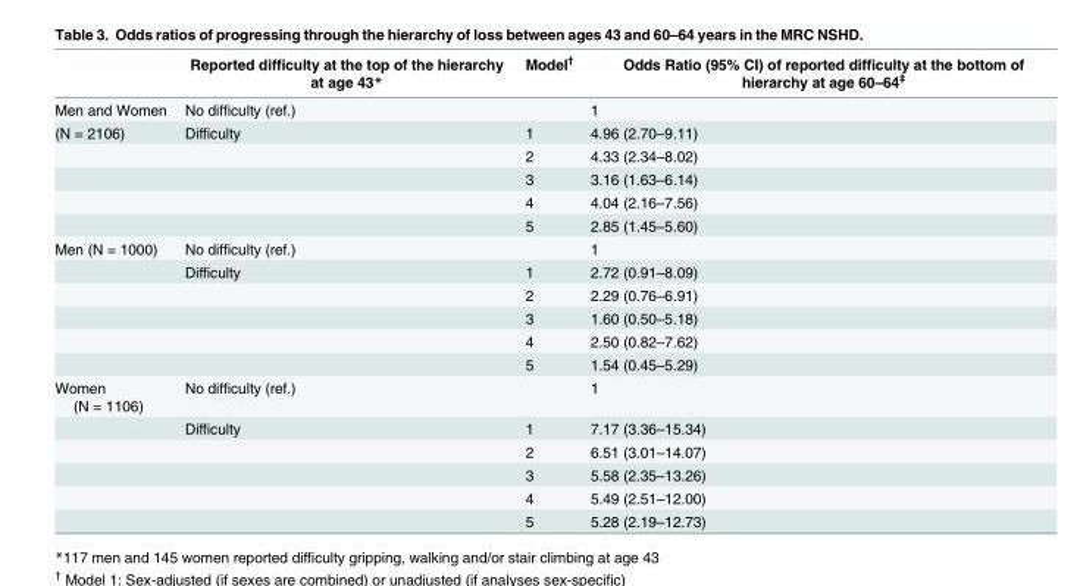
<table><thead><tr><td></td><td>Reported difficulty at the top of the hierarchy at age 43*</td><td>Model<sup>†</sup></td><td>Odds Ratio (95% CI) of reported difficulty at the bottom of hierarchy at age 60–64<sup>‡</sup></td></tr></thead><tbody><tr><td>Men and Women</td><td>No difficulty (ref.)</td><td></td><td>1</td></tr><tr><td rowspan="5">(N = 2106)</td><td>Difficulty</td><td>1</td><td>4.96 (2.70–9.11)</td></tr><tr><td></td><td>2</td><td>4.33 (2.34–8.02)</td></tr><tr><td></td><td>3</td><td>3.16 (1.63–6.14)</td></tr><tr><td></td><td>4</td><td>4.04 (2.16–7.56)</td></tr><tr><td></td><td>5</td><td>2.85 (1.45–5.60)</td></tr><tr><td rowspan="6">Men (N = 1000)</td><td>No difficulty (ref.)</td><td></td><td>1</td></tr><tr><td>Difficulty</td><td>1</td><td>2.72 (0.91–8.09)</td></tr><tr><td></td><td>2</td><td>2.29 (0.76–6.91)</td></tr><tr><td></td><td>3</td><td>1.60 (0.50–5.18)</td></tr><tr><td></td><td>4</td><td>2.50 (0.82–7.62)</td></tr><tr><td></td><td>5</td><td>1.54 (0.45–5.29)</td></tr><tr><td rowspan="6">Women (N = 1106)</td><td>No difficulty (ref.)</td><td></td><td>1</td></tr><tr><td>Difficulty</td><td>1</td><td>7.17 (3.36–15.34)</td></tr><tr><td></td><td>2</td><td>6.51 (3.01–14.07)</td></tr><tr><td></td><td>3</td><td>5.58 (2.35–13.26)</td></tr><tr><td></td><td>4</td><td>5.49 (2.51–12.00)</td></tr><tr><td></td><td>5</td><td>5.28 (2.19–12.73)</td></tr></tbody></table>